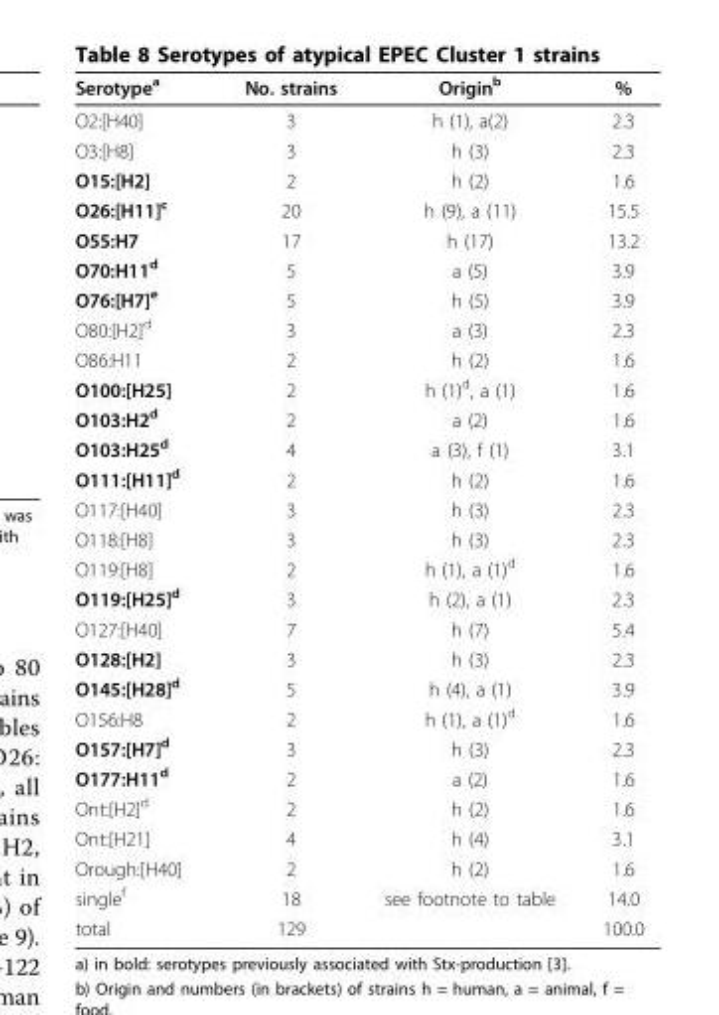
<table><thead><tr><td>Serotype<sup>a</sup></td><td>No. strains</td><td>Origin<sup>b</sup></td><td>%</td></tr></thead><tbody><tr><td>O2:[H40]</td><td>3</td><td>h (1), a(2)</td><td>2.3</td></tr><tr><td>O3:[H8]</td><td>3</td><td>h (3)</td><td>2.3</td></tr><tr><td>O15:[H2]</td><td>2</td><td>h (2)</td><td>1.6</td></tr><tr><td>O26:[H11]<sup>c</sup></td><td>20</td><td>h (9), a (11)</td><td>15.5</td></tr><tr><td>O55:H7</td><td>17</td><td>h (17)</td><td>13.2</td></tr><tr><td>O70:H11<sup>d</sup></td><td>5</td><td>a (5)</td><td>3.9</td></tr><tr><td>O76:[H7]<sup>e</sup></td><td>5</td><td>h (5)</td><td>3.9</td></tr><tr><td>O80:[H2]<sup>d</sup></td><td>3</td><td>a (3)</td><td>2.3</td></tr><tr><td>O86:H11</td><td>2</td><td>h (2)</td><td>1.6</td></tr><tr><td>O100:[H25]</td><td>2</td><td>h (1)<sup>d</sup>, a (1)</td><td>1.6</td></tr><tr><td>O103:H2<sup>d</sup></td><td>2</td><td>a (2)</td><td>1.6</td></tr><tr><td>O103:H25<sup>d</sup></td><td>4</td><td>a (3), f (1)</td><td>3.1</td></tr><tr><td>O111:[H11]<sup>d</sup></td><td>2</td><td>h (2)</td><td>1.6</td></tr><tr><td>O117:[H40]</td><td>3</td><td>h (3)</td><td>2.3</td></tr><tr><td>O118:[H8]</td><td>3</td><td>h (3)</td><td>2.3</td></tr><tr><td>O119:[H8]</td><td>2</td><td>h (1), a (1)<sup>d</sup></td><td>1.6</td></tr><tr><td>O119:[H25]<sup>d</sup></td><td>3</td><td>h (2), a (1)</td><td>2.3</td></tr><tr><td>O127:[H40]</td><td>7</td><td>h (7)</td><td>5.4</td></tr><tr><td>O128:[H2]</td><td>3</td><td>h (3)</td><td>2.3</td></tr><tr><td>O145:[H28]<sup>d</sup></td><td>5</td><td>h (4), a (1)</td><td>3.9</td></tr><tr><td>O156:H8</td><td>2</td><td>h (1), a (1)<sup>d</sup></td><td>1.6</td></tr><tr><td>O157:[H7]<sup>d</sup></td><td>3</td><td>h (3)</td><td>2.3</td></tr><tr><td>O177:H11<sup>d</sup></td><td>2</td><td>a (2)</td><td>1.6</td></tr><tr><td>Ont:[H2]<sup>d</sup></td><td>2</td><td>h (2)</td><td>1.6</td></tr><tr><td>Ont:[H21]</td><td>4</td><td>h (4)</td><td>3.1</td></tr><tr><td>Orough:[H40]</td><td>2</td><td>h (2)</td><td>1.6</td></tr><tr><td>single<sup>f</sup></td><td>18</td><td>see footnote to table</td><td>14.0</td></tr><tr><td>total</td><td>129</td><td></td><td>100.0</td></tr></tbody></table>